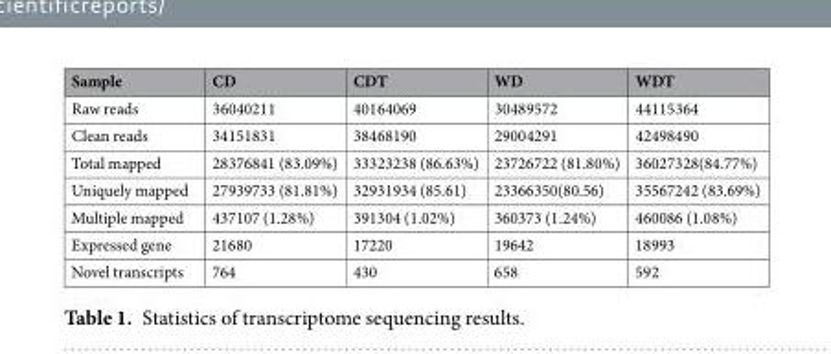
<table><thead><tr><td>Sample</td><td>CD</td><td>CDT</td><td>WD</td><td>WDT</td></tr></thead><tbody><tr><td>Raw reads</td><td>36040211</td><td>40164069</td><td>30489572</td><td>44115364</td></tr><tr><td>Clean reads</td><td>34151831</td><td>38468190</td><td>29004291</td><td>42498490</td></tr><tr><td>Total mapped</td><td>28376841 (83.09%)</td><td>33323238 (86.63%)</td><td>23726722 (81.80%)</td><td>36027328(84.77%)</td></tr><tr><td>Uniquely mapped</td><td>27939733 (81.81%)</td><td>32931934 (85.61)</td><td>23366350(80.56)</td><td>35567242 (83.69%)</td></tr><tr><td>Multiple mapped</td><td>437107 (1.28%)</td><td>391304 (1.02%)</td><td>360373 (1.24%)</td><td>460086 (1.08%)</td></tr><tr><td>Expressed gene</td><td>21680</td><td>17220</td><td>19642</td><td>18993</td></tr><tr><td>Novel transcripts</td><td>764</td><td>430</td><td>658</td><td>592</td></tr></tbody></table>